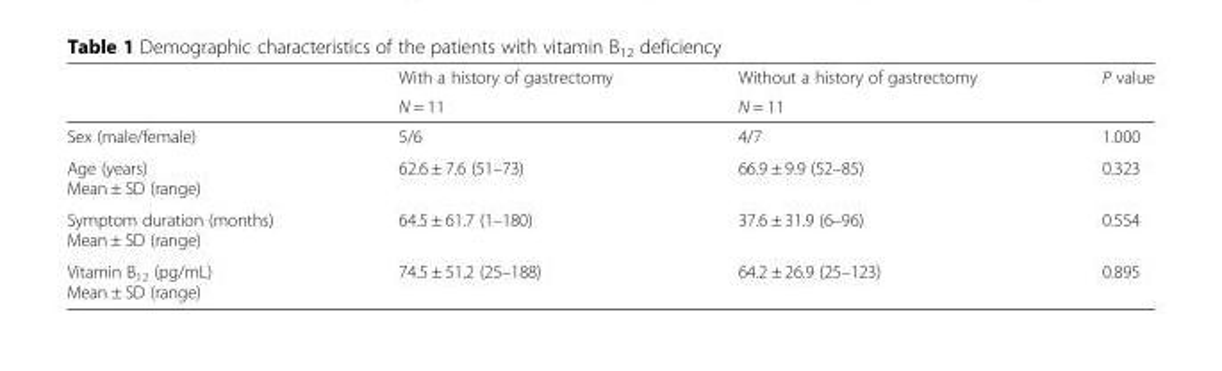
<table><thead><tr><td rowspan="2"></td><td rowspan="2">With a history of gastrectomy N = 11</td><td rowspan="2">Without a history of gastrectomy N = 11</td><td rowspan="2">P value</td></tr><tr></tr></thead><tbody><tr><td>Sex (male/female)</td><td>5/6</td><td>4/7</td><td>1.000</td></tr><tr><td>Age (years) Mean ± SD (range)</td><td>62.6 ± 7.6 (51–73)</td><td>66.9 ± 9.9 (52–85)</td><td>0.323</td></tr><tr><td>Symptom duration (months) Mean ± SD (range)</td><td>64.5 ± 61.7 (1–180)</td><td>37.6 ± 31.9 (6–96)</td><td>0.554</td></tr><tr><td>Vitamin B<sub>12</sub> (pg/mL) Mean ± SD (range)</td><td>74.5 ± 51.2 (25–188)</td><td>64.2 ± 26.9 (25–123)</td><td>0.895</td></tr></tbody></table>